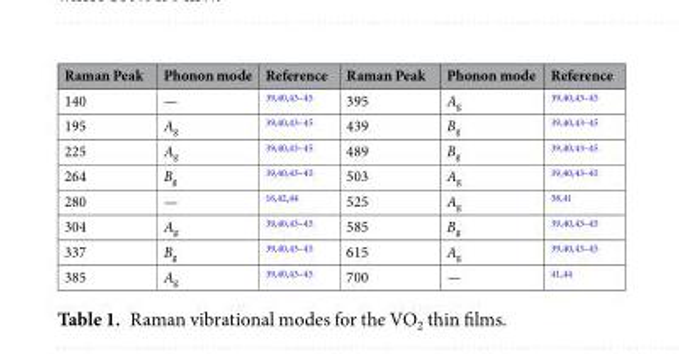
<table><thead><tr><td>Raman Peak</td><td>Phonon mode</td><td>Reference</td><td>Raman Peak</td><td>Phonon mode</td><td>Reference</td></tr></thead><tbody><tr><td>140</td><td>—</td><td><sup>39,40,43–45</sup></td><td>395</td><td>A<sub>g</sub></td><td><sup>39,40,43–45</sup></td></tr><tr><td>195</td><td>A<sub>g</sub></td><td><sup>39,40,43–45</sup></td><td>439</td><td>B<sub>g</sub></td><td><sup>39,40,43–45</sup></td></tr><tr><td>225</td><td>A<sub>g</sub></td><td><sup>39,40,43–45</sup></td><td>489</td><td>B<sub>g</sub></td><td><sup>39,40,43–45</sup></td></tr><tr><td>264</td><td>B<sub>g</sub></td><td><sup>39,40,43–45</sup></td><td>503</td><td>A<sub>g</sub></td><td><sup>39,40,43–45</sup></td></tr><tr><td>280</td><td>—</td><td><sup>16,42,44</sup></td><td>525</td><td>A<sub>g</sub></td><td><sup>38,41</sup></td></tr><tr><td>304</td><td>A<sub>g</sub></td><td><sup>39,40,43–45</sup></td><td>585</td><td>B<sub>g</sub></td><td><sup>39,40,43–45</sup></td></tr><tr><td>337</td><td>B<sub>g</sub></td><td><sup>39,40,43–45</sup></td><td>615</td><td>A<sub>g</sub></td><td><sup>39,40,43–45</sup></td></tr><tr><td>385</td><td>A<sub>g</sub></td><td><sup>39,40,43–45</sup></td><td>700</td><td>—</td><td><sup>41,44</sup></td></tr></tbody></table>